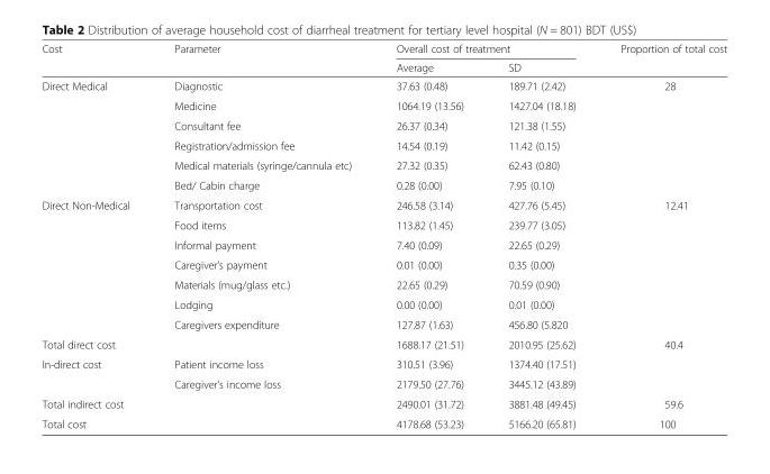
<table><thead><tr><td rowspan="2">Cost</td><td rowspan="2">Parameter</td><td colspan="2">Overall cost of treatment</td><td rowspan="2">Proportion of total cost</td></tr><tr><td>Average</td><td>SD</td></tr></thead><tbody><tr><td rowspan="6">Direct Medical</td><td>Diagnostic</td><td>37.63 (0.48)</td><td>189.71 (2.42)</td><td rowspan="6">28</td></tr><tr><td>Medicine</td><td>1064.19 (13.56)</td><td>1427.04 (18.18)</td></tr><tr><td>Consultant fee</td><td>26.37 (0.34)</td><td>121.38 (1.55)</td></tr><tr><td>Registration/admission fee</td><td>14.54 (0.19)</td><td>11.42 (0.15)</td></tr><tr><td>Medical materials (syringe/cannula etc)</td><td>27.32 (0.35)</td><td>62.43 (0.80)</td></tr><tr><td>Bed/ Cabin charge</td><td>0.28 (0.00)</td><td>7.95 (0.10)</td></tr><tr><td rowspan="7">Direct Non-Medical</td><td>Transportation cost</td><td>246.58 (3.14)</td><td>427.76 (5.45)</td><td rowspan="7">12.41</td></tr><tr><td>Food items</td><td>113.82 (1.45)</td><td>239.77 (3.05)</td></tr><tr><td>Informal payment</td><td>7.40 (0.09)</td><td>22.65 (0.29)</td></tr><tr><td>Caregiver’s payment</td><td>0.01 (0.00)</td><td>0.35 (0.00)</td></tr><tr><td>Materials (mug/glass etc.)</td><td>22.65 (0.29)</td><td>70.59 (0.90)</td></tr><tr><td>Lodging</td><td>0.00 (0.00)</td><td>0.01 (0.00)</td></tr><tr><td>Caregivers expenditure</td><td>127.87 (1.63)</td><td>456.80 (5.820</td></tr><tr><td>Total direct cost</td><td></td><td>1688.17 (21.51)</td><td>2010.95 (25.62)</td><td>40.4</td></tr><tr><td rowspan="2">In-direct cost</td><td>Patient income loss</td><td>310.51 (3.96)</td><td>1374.40 (17.51)</td><td></td></tr><tr><td>Caregiver’s income loss</td><td>2179.50 (27.76)</td><td>3445.12 (43.89)</td><td></td></tr><tr><td>Total indirect cost</td><td></td><td>2490.01 (31.72)</td><td>3881.48 (49.45)</td><td>59.6</td></tr><tr><td>Total cost</td><td></td><td>4178.68 (53.23)</td><td>5166.20 (65.81)</td><td>100</td></tr></tbody></table>